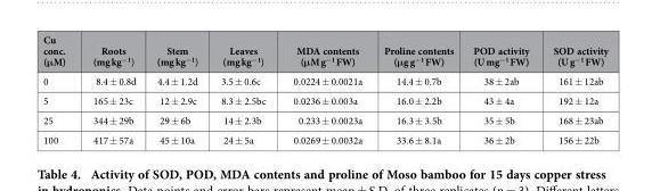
<table><thead><tr><td>conc. (μM)</td><td>Roots (mg kg<sup>−1</sup>)</td><td>Stem (mg kg<sup>−1</sup>)</td><td>Leaves (mg kg<sup>−1</sup>)</td><td>MDA contents (μM g<sup>−1</sup> FW)</td><td>Proline contents (μg g<sup>−1</sup> FW)</td><td>POD activity (U mg<sup>−1</sup> FW)</td><td>SOD activity (U g<sup>−1</sup> FW)</td></tr></thead><tbody><tr><td>0</td><td>8.4 ± 0.8d</td><td>4.4 ± 1.2d</td><td>3.5 ± 0.6c</td><td>0.0224 ± 0.0021a</td><td>14.4 ± 0.7b</td><td>38 ± 2ab</td><td>161 ± 12ab</td></tr><tr><td>5</td><td>165 ± 23c</td><td>12 ± 2.9c</td><td>8.3 ± 2.5bc</td><td>0.0236 ± 0.003a</td><td>16.0 ± 2.2b</td><td>43 ± 4a</td><td>192 ± 12a</td></tr><tr><td>25</td><td>344 ± 29b</td><td>29 ± 6b</td><td>14 ± 2.3b</td><td>0.233 ± 0.0023a</td><td>16.3 ± 3.5b</td><td>35 ± 5b</td><td>168 ± 23ab</td></tr><tr><td>100</td><td>417 ± 57a</td><td>45 ± 10a</td><td>24 ± 5a</td><td>0.0269 ± 0.0032a</td><td>33.6 ± 8.1a</td><td>36 ± 2b</td><td>156 ± 22b</td></tr></tbody></table>